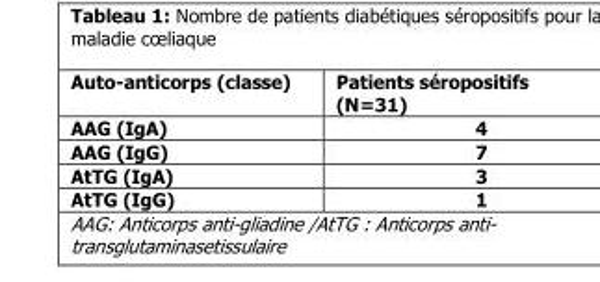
<table><thead><tr><td>Auto-anticorps (classe)</td><td>Patients séropositifs (N=31)</td></tr></thead><tbody><tr><td>AAG (IgA)</td><td>4</td></tr><tr><td>AAG (IgG)</td><td>7</td></tr><tr><td>AtTG (IgA)</td><td>3</td></tr><tr><td>AtTG (IgG)</td><td>1</td></tr></tbody></table>